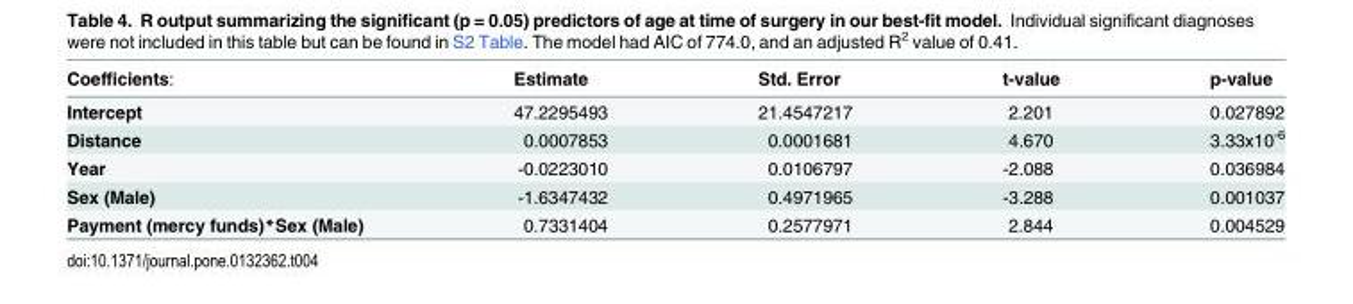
<table><thead><tr><td>Coefficients:</td><td>Estimate</td><td>Std. Error</td><td>t-value</td><td>p-value</td></tr></thead><tbody><tr><td>Intercept</td><td>47.2295493</td><td>21.4547217</td><td>2.201</td><td>0.027892</td></tr><tr><td>Distance</td><td>0.0007853</td><td>0.0001681</td><td>4.670</td><td>3.33x10<sup>-6</sup></td></tr><tr><td>Year</td><td>-0.0223010</td><td>0.0106797</td><td>-2.088</td><td>0.036984</td></tr><tr><td>Sex (Male)</td><td>-1.6347432</td><td>0.4971965</td><td>-3.288</td><td>0.001037</td></tr><tr><td>Payment (mercy funds)*Sex (Male)</td><td>0.7331404</td><td>0.2577971</td><td>2.844</td><td>0.004529</td></tr></tbody></table>